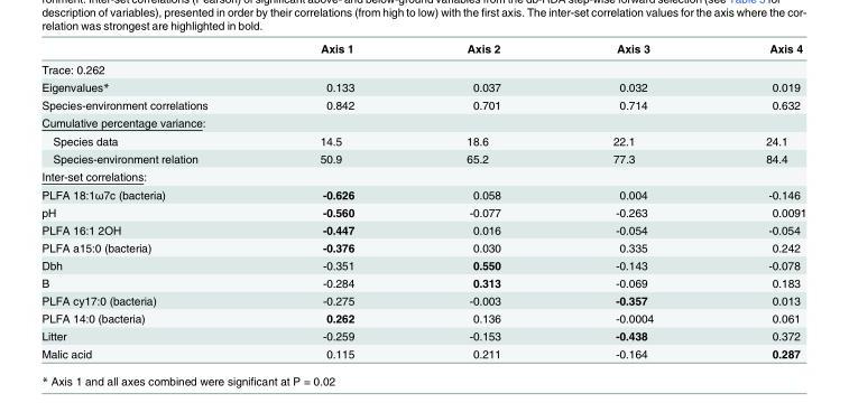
<table><thead><tr><td></td><td>Axis 1</td><td>Axis 2</td><td>Axis 3</td><td>Axis 4</td></tr></thead><tbody><tr><td colspan="5">Trace: 0.262</td></tr><tr><td>Eigenvalues*</td><td>0.133</td><td>0.037</td><td>0.032</td><td>0.019</td></tr><tr><td>Species-environment correlations</td><td>0.842</td><td>0.701</td><td>0.714</td><td>0.632</td></tr><tr><td colspan="5">Cumulative percentage variance:</td></tr><tr><td>Species data</td><td>14.5</td><td>18.6</td><td>22.1</td><td>24.1</td></tr><tr><td>Species-environment relation</td><td>50.9</td><td>65.2</td><td>77.3</td><td>84.4</td></tr><tr><td colspan="5">Inter-set correlations:</td></tr><tr><td>PLFA 18:1ω7c (bacteria)</td><td>-0.626</td><td>0.058</td><td>0.004</td><td>-0.146</td></tr><tr><td>pH</td><td>-0.560</td><td>-0.077</td><td>-0.263</td><td>0.0091</td></tr><tr><td>PLFA 16:1 2OH</td><td>-0.447</td><td>0.016</td><td>-0.054</td><td>-0.054</td></tr><tr><td>PLFA a15:0 (bacteria)</td><td>-0.376</td><td>0.030</td><td>0.335</td><td>0.242</td></tr><tr><td>Dbh</td><td>-0.351</td><td>0.550</td><td>-0.143</td><td>-0.078</td></tr><tr><td>B</td><td>-0.284</td><td>0.313</td><td>-0.069</td><td>0.183</td></tr><tr><td>PLFA cy17:0 (bacteria)</td><td>-0.275</td><td>-0.003</td><td>-0.357</td><td>0.013</td></tr><tr><td>PLFA 14:0 (bacteria)</td><td>0.262</td><td>0.136</td><td>-0.0004</td><td>0.061</td></tr><tr><td>Litter</td><td>-0.259</td><td>-0.153</td><td>-0.438</td><td>0.372</td></tr><tr><td>Malic acid</td><td>0.115</td><td>0.211</td><td>-0.164</td><td>0.287</td></tr></tbody></table>